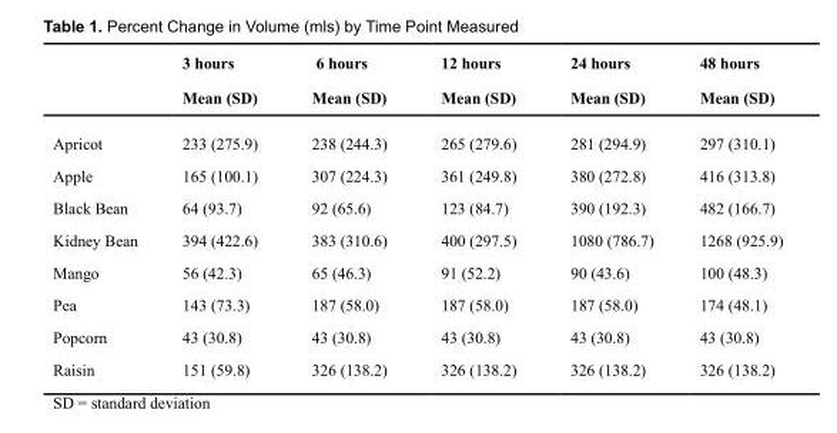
<table><thead><tr><td rowspan="2"></td><td rowspan="2">3 hours Mean (SD)</td><td rowspan="2">6 hours Mean (SD)</td><td rowspan="2">12 hours Mean (SD)</td><td rowspan="2">24 hours Mean (SD)</td><td rowspan="2">48 hours Mean (SD)</td></tr><tr></tr></thead><tbody><tr><td>Apricot</td><td>233 (275.9)</td><td>238 (244.3)</td><td>265 (279.6)</td><td>281 (294.9)</td><td>297 (310.1)</td></tr><tr><td>Apple</td><td>165 (100.1)</td><td>307 (224.3)</td><td>361 (249.8)</td><td>380 (272.8)</td><td>416 (313.8)</td></tr><tr><td>Black Bean</td><td>64 (93.7)</td><td>92 (65.6)</td><td>123 (84.7)</td><td>390 (192.3)</td><td>482 (166.7)</td></tr><tr><td>Kidney Bean</td><td>394 (422.6)</td><td>383 (310.6)</td><td>400 (297.5)</td><td>1080 (786.7)</td><td>1268 (925.9)</td></tr><tr><td>Mango</td><td>56 (42.3)</td><td>65 (46.3)</td><td>91 (52.2)</td><td>90 (43.6)</td><td>100 (48.3)</td></tr><tr><td>Pea</td><td>143 (73.3)</td><td>187 (58.0)</td><td>187 (58.0)</td><td>187 (58.0)</td><td>174 (48.1)</td></tr><tr><td>Popcorn</td><td>43 (30.8)</td><td>43 (30.8)</td><td>43 (30.8)</td><td>43 (30.8)</td><td>43 (30.8)</td></tr><tr><td>Raisin</td><td>151 (59.8)</td><td>326 (138.2)</td><td>326 (138.2)</td><td>326 (138.2)</td><td>326 (138.2)</td></tr></tbody></table>